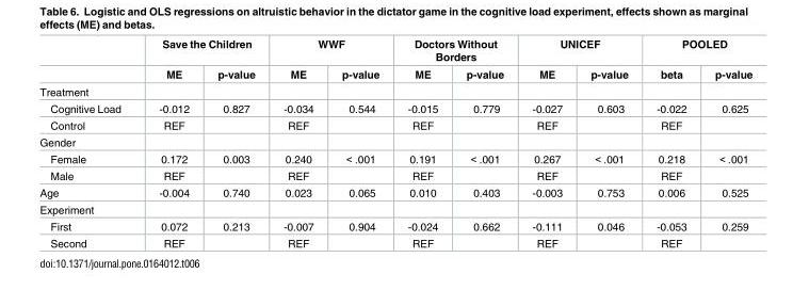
<table><thead><tr><td rowspan="2"></td><td colspan="2">Save the Children</td><td colspan="2">WWF</td><td colspan="2">Doctors Without Borders</td><td colspan="2">UNICEF</td><td colspan="2">POOLED</td></tr><tr><td>ME</td><td>p-value</td><td>ME</td><td>p-value</td><td>ME</td><td>p-value</td><td>ME</td><td>p-value</td><td>beta</td><td>p-value</td></tr></thead><tbody><tr><td colspan="11">Treatment</td></tr><tr><td>Cognitive Load</td><td>-0.012</td><td>0.827</td><td>-0.034</td><td>0.544</td><td>-0.015</td><td>0.779</td><td>-0.027</td><td>0.603</td><td>-0.022</td><td>0.625</td></tr><tr><td>Control</td><td>REF</td><td></td><td>REF</td><td></td><td>REF</td><td></td><td>REF</td><td></td><td>REF</td><td></td></tr><tr><td colspan="11">Gender</td></tr><tr><td>Female</td><td>0.172</td><td>0.003</td><td>0.240</td><td>&lt; .001</td><td>0.191</td><td>&lt; .001</td><td>0.267</td><td>&lt; .001</td><td>0.218</td><td>&lt; .001</td></tr><tr><td>Male</td><td>REF</td><td></td><td>REF</td><td></td><td>REF</td><td></td><td>REF</td><td></td><td>REF</td><td></td></tr><tr><td>Age</td><td>-0.004</td><td>0.740</td><td>0.023</td><td>0.065</td><td>0.010</td><td>0.403</td><td>-0.003</td><td>0.753</td><td>0.006</td><td>0.525</td></tr><tr><td colspan="11">Experiment</td></tr><tr><td>First</td><td>0.072</td><td>0.213</td><td>-0.007</td><td>0.904</td><td>-0.024</td><td>0.662</td><td>-0.111</td><td>0.046</td><td>-0.053</td><td>0.259</td></tr><tr><td>Second</td><td>REF</td><td></td><td>REF</td><td></td><td>REF</td><td></td><td>REF</td><td></td><td>REF</td><td></td></tr></tbody></table>